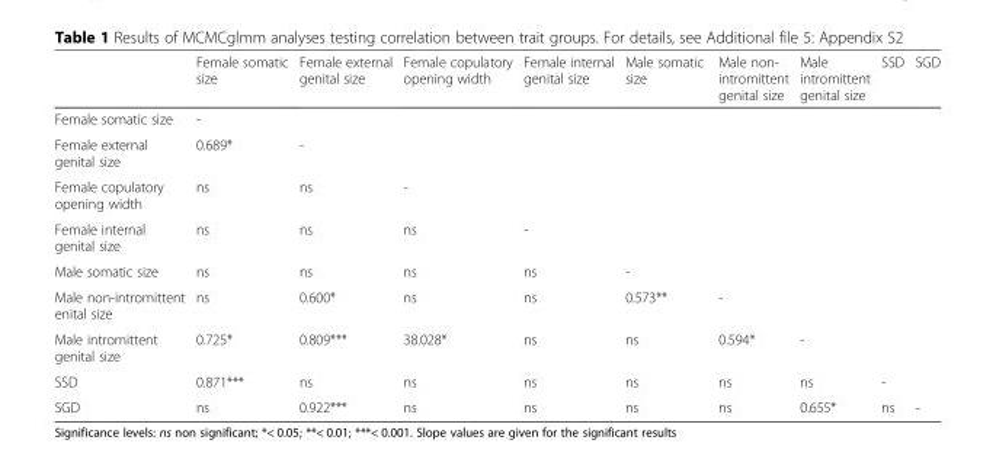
<table><thead><tr><td></td><td>Female somatic size</td><td>Female external genital size</td><td>Female copulatory opening width</td><td>Female internal genital size</td><td>Male somatic size</td><td>Male non- intromittent genital size</td><td>Male intromittent genital size</td><td>SSD</td><td>SGD</td></tr></thead><tbody><tr><td>Female somatic size</td><td>-</td><td></td><td></td><td></td><td></td><td></td><td></td><td></td><td></td></tr><tr><td>Female external genital size</td><td>0.689*</td><td>-</td><td></td><td></td><td></td><td></td><td></td><td></td><td></td></tr><tr><td>Female copulatory opening width</td><td>ns</td><td>ns</td><td>-</td><td></td><td></td><td></td><td></td><td></td><td></td></tr><tr><td>Female internal genital size</td><td>ns</td><td>ns</td><td>ns</td><td>-</td><td></td><td></td><td></td><td></td><td></td></tr><tr><td>Male somatic size</td><td>ns</td><td>ns</td><td>ns</td><td>ns</td><td>-</td><td></td><td></td><td></td><td></td></tr><tr><td>Male non-intromittent enital size</td><td>ns</td><td>0.600*</td><td>ns</td><td>ns</td><td>0.573**</td><td>-</td><td></td><td></td><td></td></tr><tr><td>Male intromittent genital size</td><td>0.725*</td><td>0.809***</td><td>38.028*</td><td>ns</td><td>ns</td><td>0.594*</td><td>-</td><td></td><td></td></tr><tr><td>SSD</td><td>0.871***</td><td>ns</td><td>ns</td><td>ns</td><td>ns</td><td>ns</td><td>ns</td><td>-</td><td></td></tr><tr><td>SGD</td><td>ns</td><td>0.922***</td><td>ns</td><td>ns</td><td>ns</td><td>ns</td><td>0.655*</td><td>ns</td><td>-</td></tr></tbody></table>